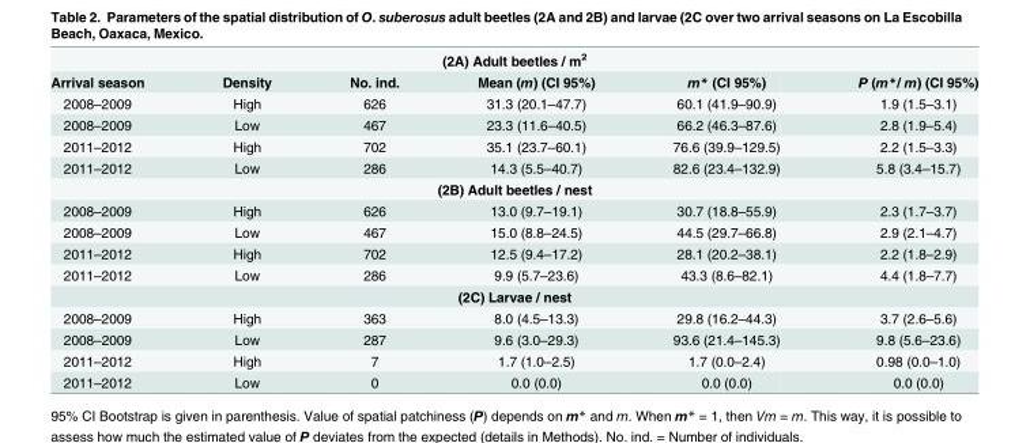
<table><tbody><tr><td colspan="6">(2A) Adult beetles / m<sup>2</sup></td></tr><tr><td>Arrival season</td><td>Density</td><td>No. ind.</td><td>Mean (m) (CI 95%)</td><td>m* (CI 95%)</td><td>P (m*/ m) (CI 95%)</td></tr><tr><td>2008–2009</td><td>High</td><td>626</td><td>31.3 (20.1–47.7)</td><td>60.1 (41.9–90.9)</td><td>1.9 (1.5–3.1)</td></tr><tr><td>2008–2009</td><td>Low</td><td>467</td><td>23.3 (11.6–40.5)</td><td>66.2 (46.3–87.6)</td><td>2.8 (1.9–5.4)</td></tr><tr><td>2011–2012</td><td>High</td><td>702</td><td>35.1 (23.7–60.1)</td><td>76.6 (39.9–129.5)</td><td>2.2 (1.5–3.3)</td></tr><tr><td>2011–2012</td><td>Low</td><td>286</td><td>14.3 (5.5–40.7)</td><td>82.6 (23.4–132.9)</td><td>5.8 (3.4–15.7)</td></tr><tr><td colspan="6">(2B) Adult beetles / nest</td></tr><tr><td>2008–2009</td><td>High</td><td>626</td><td>13.0 (9.7–19.1)</td><td>30.7 (18.8–55.9)</td><td>2.3 (1.7–3.7)</td></tr><tr><td>2008–2009</td><td>Low</td><td>467</td><td>15.0 (8.8–24.5)</td><td>44.5 (29.7–66.8)</td><td>2.9 (2.1–4.7)</td></tr><tr><td>2011–2012</td><td>High</td><td>702</td><td>12.5 (9.4–17.2)</td><td>28.1 (20.2–38.1)</td><td>2.2 (1.8–2.9)</td></tr><tr><td>2011–2012</td><td>Low</td><td>286</td><td>9.9 (5.7–23.6)</td><td>43.3 (8.6–82.1)</td><td>4.4 (1.8–7.7)</td></tr><tr><td colspan="6">(2C) Larvae / nest</td></tr><tr><td>2008–2009</td><td>High</td><td>363</td><td>8.0 (4.5–13.3)</td><td>29.8 (16.2–44.3)</td><td>3.7 (2.6–5.6)</td></tr><tr><td>2008–2009</td><td>Low</td><td>287</td><td>9.6 (3.0–29.3)</td><td>93.6 (21.4–145.3)</td><td>9.8 (5.6–23.6)</td></tr><tr><td>2011–2012</td><td>High</td><td>7</td><td>1.7 (1.0–2.5)</td><td>1.7 (0.0–2.4)</td><td>0.98 (0.0–1.0)</td></tr><tr><td>2011–2012</td><td>Low</td><td>0</td><td>0.0 (0.0)</td><td>0.0 (0.0)</td><td>0.0 (0.0)</td></tr></tbody></table>